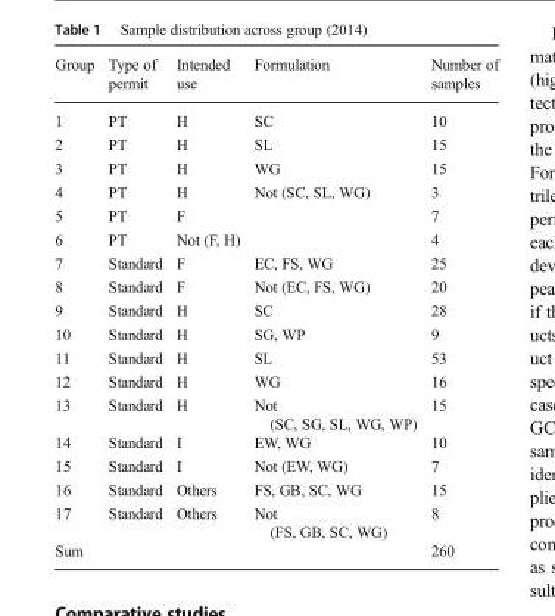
<table><thead><tr><td>Group</td><td>Type of permit</td><td>Intended use</td><td>Formulation</td><td>Number of samples</td></tr></thead><tbody><tr><td>1</td><td>PT</td><td>H</td><td>SC</td><td>10</td></tr><tr><td>2</td><td>PT</td><td>H</td><td>SL</td><td>15</td></tr><tr><td>3</td><td>PT</td><td>H</td><td>WG</td><td>15</td></tr><tr><td>4</td><td>PT</td><td>H</td><td>Not (SC, SL, WG)</td><td>3</td></tr><tr><td>5</td><td>PT</td><td>F</td><td></td><td>7</td></tr><tr><td>6</td><td>PT</td><td>Not (F, H)</td><td></td><td>4</td></tr><tr><td>7</td><td>Standard</td><td>F</td><td>EC, FS, WG</td><td>25</td></tr><tr><td>8</td><td>Standard</td><td>F</td><td>Not (EC, FS, WG)</td><td>20</td></tr><tr><td>9</td><td>Standard</td><td>H</td><td>SC</td><td>28</td></tr><tr><td>10</td><td>Standard</td><td>H</td><td>SG, WP</td><td>9</td></tr><tr><td>11</td><td>Standard</td><td>H</td><td>SL</td><td>53</td></tr><tr><td>12</td><td>Standard</td><td>H</td><td>WG</td><td>16</td></tr><tr><td>13</td><td>Standard</td><td>H</td><td>Not (SC, SG, SL, WG, WP)</td><td>15</td></tr><tr><td>14</td><td>Standard</td><td>I</td><td>EW, WG</td><td>10</td></tr><tr><td>15</td><td>Standard</td><td>I</td><td>Not (EW, WG)</td><td>7</td></tr><tr><td>16</td><td>Standard</td><td>Others</td><td>FS, GB, SC, WG</td><td>15</td></tr><tr><td>17</td><td>Standard</td><td>Others</td><td>Not (FS, GB, SC, WG)</td><td>8</td></tr><tr><td colspan="4">Sum</td><td>260</td></tr></tbody></table>